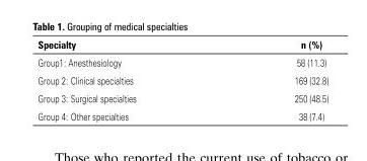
<table><thead><tr><td>Specialty</td><td>n (%)</td></tr></thead><tbody><tr><td>Group1: Anesthesiology</td><td>58 (11.3)</td></tr><tr><td>Group 2: Clinical specialties</td><td>169 (32.8)</td></tr><tr><td>Group 3: Surgical specialties</td><td>250 (48.5)</td></tr><tr><td>Group 4: Other specialties</td><td>38 (7.4)</td></tr></tbody></table>